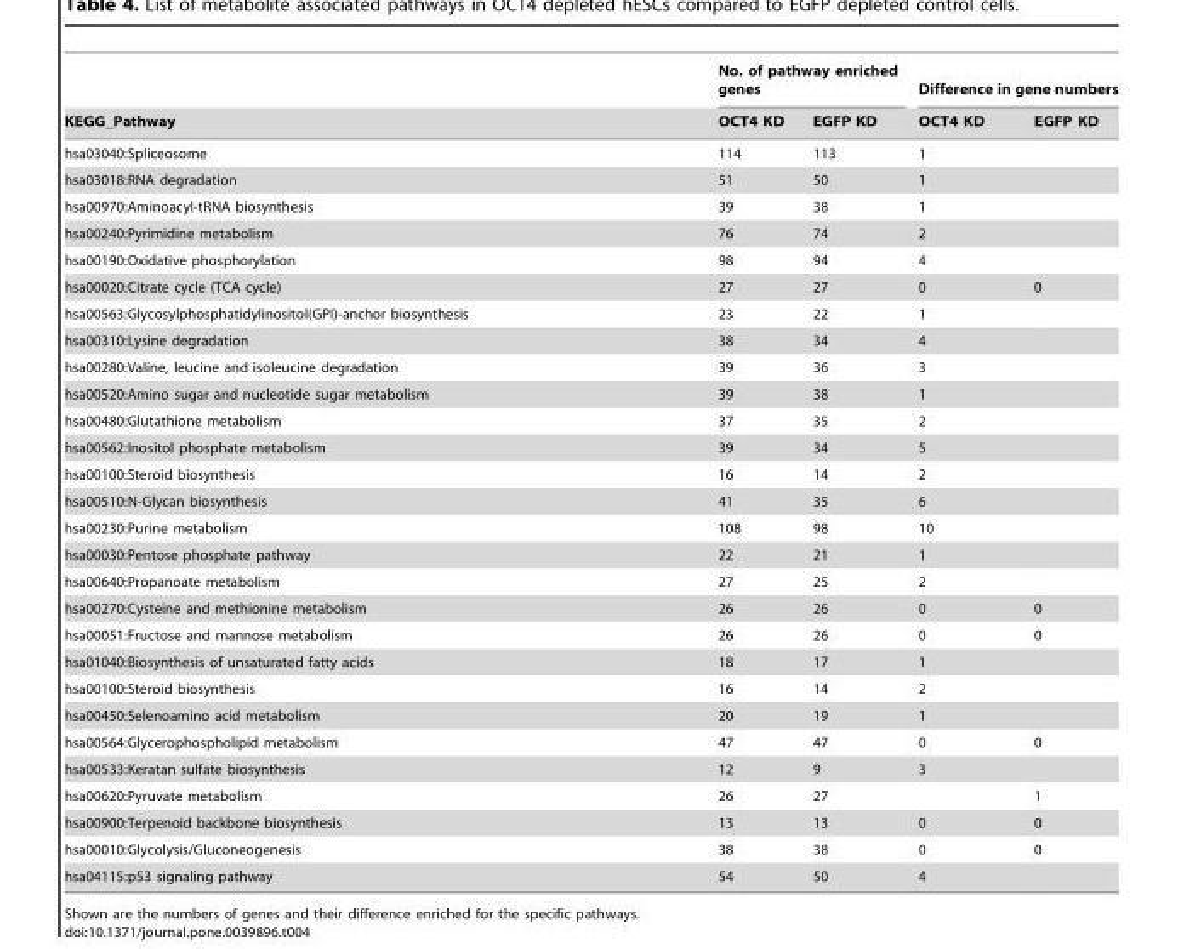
<table><thead><tr><td rowspan="2">KEGG_Pathway</td><td colspan="2">No. of pathway enriched genes</td><td colspan="2">Difference in gene numbers</td></tr><tr><td>OCT4 KD</td><td>EGFP KD</td><td>OCT4 KD</td><td>EGFP KD</td></tr></thead><tbody><tr><td>hsa03040:Spliceosome</td><td>114</td><td>113</td><td>1</td><td></td></tr><tr><td>hsa03018:RNA degradation</td><td>51</td><td>50</td><td>1</td><td></td></tr><tr><td>hsa00970:Aminoacyl-tRNA biosynthesis</td><td>39</td><td>38</td><td>1</td><td></td></tr><tr><td>hsa00240:Pyrimidine metabolism</td><td>76</td><td>74</td><td>2</td><td></td></tr><tr><td>hsa00190:Oxidative phosphorylation</td><td>98</td><td>94</td><td>4</td><td></td></tr><tr><td>hsa00020:Citrate cycle (TCA cycle)</td><td>27</td><td>27</td><td>0</td><td>0</td></tr><tr><td>hsa00563:Glycosylphosphatidylinositol(GPI)-anchor biosynthesis</td><td>23</td><td>22</td><td>1</td><td></td></tr><tr><td>hsa00310:Lysine degradation</td><td>38</td><td>34</td><td>4</td><td></td></tr><tr><td>hsa00280:Valine, leucine and isoleucine degradation</td><td>39</td><td>36</td><td>3</td><td></td></tr><tr><td>hsa00520:Amino sugar and nucleotide sugar metabolism</td><td>39</td><td>38</td><td>1</td><td></td></tr><tr><td>hsa00480:Glutathione metabolism</td><td>37</td><td>35</td><td>2</td><td></td></tr><tr><td>hsa00562:Inositol phosphate metabolism</td><td>39</td><td>34</td><td>5</td><td></td></tr><tr><td>hsa00100:Steroid biosynthesis</td><td>16</td><td>14</td><td>2</td><td></td></tr><tr><td>hsa00510:N-Glycan biosynthesis</td><td>41</td><td>35</td><td>6</td><td></td></tr><tr><td>hsa00230:Purine metabolism</td><td>108</td><td>98</td><td>10</td><td></td></tr><tr><td>hsa00030:Pentose phosphate pathway</td><td>22</td><td>21</td><td>1</td><td></td></tr><tr><td>hsa00640:Propanoate metabolism</td><td>27</td><td>25</td><td>2</td><td></td></tr><tr><td>hsa00270:Cysteine and methionine metabolism</td><td>26</td><td>26</td><td>0</td><td>0</td></tr><tr><td>hsa00051:Fructose and mannose metabolism</td><td>26</td><td>26</td><td>0</td><td>0</td></tr><tr><td>hsa01040:Biosynthesis of unsaturated fatty acids</td><td>18</td><td>17</td><td>1</td><td></td></tr><tr><td>hsa00100:Steroid biosynthesis</td><td>16</td><td>14</td><td>2</td><td></td></tr><tr><td>hsa00450:Selenoamino acid metabolism</td><td>20</td><td>19</td><td>1</td><td></td></tr><tr><td>hsa00564:Glycerophospholipid metabolism</td><td>47</td><td>47</td><td>0</td><td>0</td></tr><tr><td>hsa00533:Keratan sulfate biosynthesis</td><td>12</td><td>9</td><td>3</td><td></td></tr><tr><td>hsa00620:Pyruvate metabolism</td><td>26</td><td>27</td><td></td><td>1</td></tr><tr><td>hsa00900:Terpenoid backbone biosynthesis</td><td>13</td><td>13</td><td>0</td><td>0</td></tr><tr><td>hsa00010:Glycolysis/Gluconeogenesis</td><td>38</td><td>38</td><td>0</td><td>0</td></tr><tr><td>hsa04115:p53 signaling pathway</td><td>54</td><td>50</td><td>4</td><td></td></tr></tbody></table>